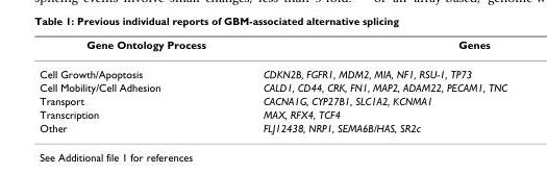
<table><thead><tr><td>Gene Ontology Process</td><td>Genes</td></tr></thead><tbody><tr><td>Cell Growth/Apoptosis</td><td>CDKN2B, FGFR1, MDM2, MIA, NF1, RSU-1, TP73</td></tr><tr><td>Cell Mobility/Cell Adhesion</td><td>CALD1, CD44, CRK, FN1, MAP2, ADAM22, PECAM1, TNC</td></tr><tr><td>Transport</td><td>CACNA1G, CYP27B1, SLC1A2, KCNMA1</td></tr><tr><td>Transcription</td><td>MAX, RFX4, TCF4</td></tr><tr><td>Other</td><td>FLJ12438, NRP1, SEMA6B/HAS, SR2c</td></tr></tbody></table>